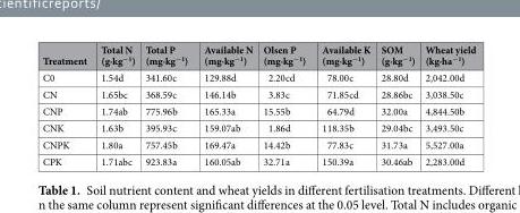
<table><thead><tr><td>Treatment</td><td>Total N (g·kg<sup>−1</sup>)</td><td>Total P (mg·kg<sup>−1</sup>)</td><td>Available N (mg·kg<sup>−1</sup>)</td><td>Olsen P (mg·kg<sup>−1</sup>)</td><td>Available K (mg·kg<sup>−1</sup>)</td><td>SOM (g·kg<sup>−1</sup>)</td><td>Wheat yield (kg·ha<sup>−1</sup>)</td></tr></thead><tbody><tr><td>C0</td><td>1.54d</td><td>341.60c</td><td>129.88d</td><td>2.20cd</td><td>78.00c</td><td>28.80d</td><td>2,042.00d</td></tr><tr><td>CN</td><td>1.65bc</td><td>368.59c</td><td>146.14b</td><td>3.83c</td><td>71.85cd</td><td>28.86bc</td><td>3,038.50c</td></tr><tr><td>CNP</td><td>1.74ab</td><td>775.96b</td><td>165.33a</td><td>15.55b</td><td>64.79d</td><td>32.00a</td><td>4,844.50b</td></tr><tr><td>CNK</td><td>1.63b</td><td>395.93c</td><td>159.07ab</td><td>1.86d</td><td>118.35b</td><td>29.04bc</td><td>3,493.50c</td></tr><tr><td>CNPK</td><td>1.80a</td><td>757.45b</td><td>169.47a</td><td>14.42b</td><td>77.83c</td><td>31.73a</td><td>5,527.00a</td></tr><tr><td>CPK</td><td>1.71abc</td><td>923.83a</td><td>160.05ab</td><td>32.71a</td><td>150.39a</td><td>30.46ab</td><td>2,283.00d</td></tr></tbody></table>